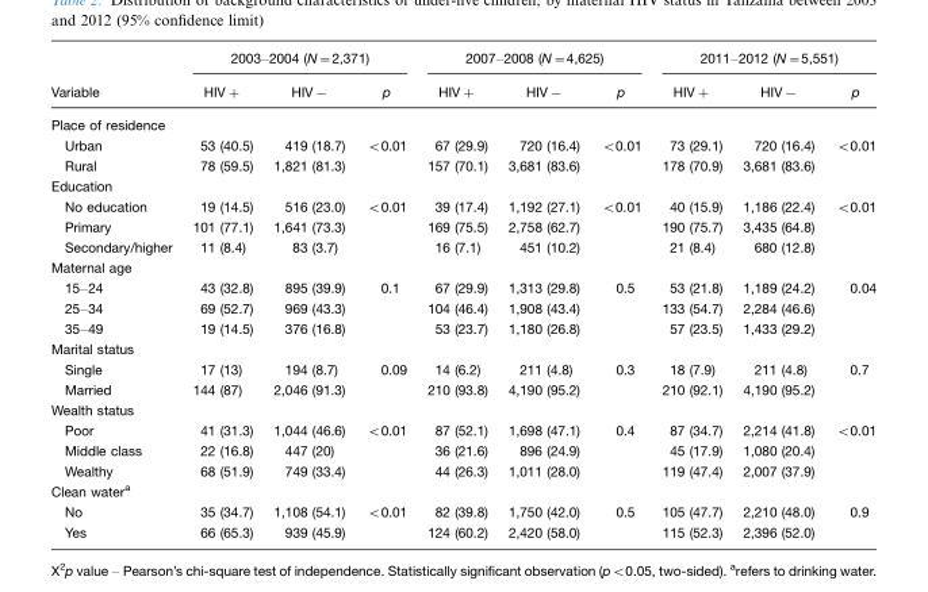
<table><thead><tr><td rowspan="2">Variable</td><td colspan="3">2003–2004 (N=2,371)</td><td colspan="3">2007–2008 (N=4,625)</td><td colspan="3">2011–2012 (N=5,551)</td></tr><tr><td>HIV+</td><td>HIV−</td><td>p</td><td>HIV+</td><td>HIV−</td><td>p</td><td>HIV+</td><td>HIV−</td><td>p</td></tr></thead><tbody><tr><td colspan="10">Place of residence</td></tr><tr><td>Urban</td><td>53 (40.5)</td><td>419 (18.7)</td><td>&lt;0.01</td><td>67 (29.9)</td><td>720 (16.4)</td><td>&lt;0.01</td><td>73 (29.1)</td><td>720 (16.4)</td><td>&lt;0.01</td></tr><tr><td>Rural</td><td>78 (59.5)</td><td>1,821 (81.3)</td><td></td><td>157 (70.1)</td><td>3,681 (83.6)</td><td></td><td>178 (70.9)</td><td>3,681 (83.6)</td><td></td></tr><tr><td colspan="10">Education</td></tr><tr><td>No education</td><td>19 (14.5)</td><td>516 (23.0)</td><td>&lt;0.01</td><td>39 (17.4)</td><td>1,192 (27.1)</td><td>&lt;0.01</td><td>40 (15.9)</td><td>1,186 (22.4)</td><td>&lt;0.01</td></tr><tr><td>Primary</td><td>101 (77.1)</td><td>1,641 (73.3)</td><td></td><td>169 (75.5)</td><td>2,758 (62.7)</td><td></td><td>190 (75.7)</td><td>3,435 (64.8)</td><td></td></tr><tr><td>Secondary/higher</td><td>11 (8.4)</td><td>83 (3.7)</td><td></td><td>16 (7.1)</td><td>451 (10.2)</td><td></td><td>21 (8.4)</td><td>680 (12.8)</td><td></td></tr><tr><td colspan="10">Maternal age</td></tr><tr><td>15–24</td><td>43 (32.8)</td><td>895 (39.9)</td><td>0.1</td><td>67 (29.9)</td><td>1,313 (29.8)</td><td>0.5</td><td>53 (21.8)</td><td>1,189 (24.2)</td><td>0.04</td></tr><tr><td>25–34</td><td>69 (52.7)</td><td>969 (43.3)</td><td></td><td>104 (46.4)</td><td>1,908 (43.4)</td><td></td><td>133 (54.7)</td><td>2,284 (46.6)</td><td></td></tr><tr><td>35–49</td><td>19 (14.5)</td><td>376 (16.8)</td><td></td><td>53 (23.7)</td><td>1,180 (26.8)</td><td></td><td>57 (23.5)</td><td>1,433 (29.2)</td><td></td></tr><tr><td colspan="10">Marital status</td></tr><tr><td>Single</td><td>17 (13)</td><td>194 (8.7)</td><td>0.09</td><td>14 (6.2)</td><td>211 (4.8)</td><td>0.3</td><td>18 (7.9)</td><td>211 (4.8)</td><td>0.7</td></tr><tr><td>Married</td><td>144 (87)</td><td>2,046 (91.3)</td><td></td><td>210 (93.8)</td><td>4,190 (95.2)</td><td></td><td>210 (92.1)</td><td>4,190 (95.2)</td><td></td></tr><tr><td colspan="10">Wealth status</td></tr><tr><td>Poor</td><td>41 (31.3)</td><td>1,044 (46.6)</td><td>&lt;0.01</td><td>87 (52.1)</td><td>1,698 (47.1)</td><td>0.4</td><td>87 (34.7)</td><td>2,214 (41.8)</td><td>&lt;0.01</td></tr><tr><td>Middle class</td><td>22 (16.8)</td><td>447 (20)</td><td></td><td>36 (21.6)</td><td>896 (24.9)</td><td></td><td>45 (17.9)</td><td>1,080 (20.4)</td><td></td></tr><tr><td>Wealthy</td><td>68 (51.9)</td><td>749 (33.4)</td><td></td><td>44 (26.3)</td><td>1,011 (28.0)</td><td></td><td>119 (47.4)</td><td>2,007 (37.9)</td><td></td></tr><tr><td colspan="10">Clean water<sup>a</sup></td></tr><tr><td>No</td><td>35 (34.7)</td><td>1,108 (54.1)</td><td>&lt;0.01</td><td>82 (39.8)</td><td>1,750 (42.0)</td><td>0.5</td><td>105 (47.7)</td><td>2,210 (48.0)</td><td>0.9</td></tr><tr><td>Yes</td><td>66 (65.3)</td><td>939 (45.9)</td><td></td><td>124 (60.2)</td><td>2,420 (58.0)</td><td></td><td>115 (52.3)</td><td>2,396 (52.0)</td><td></td></tr></tbody></table>